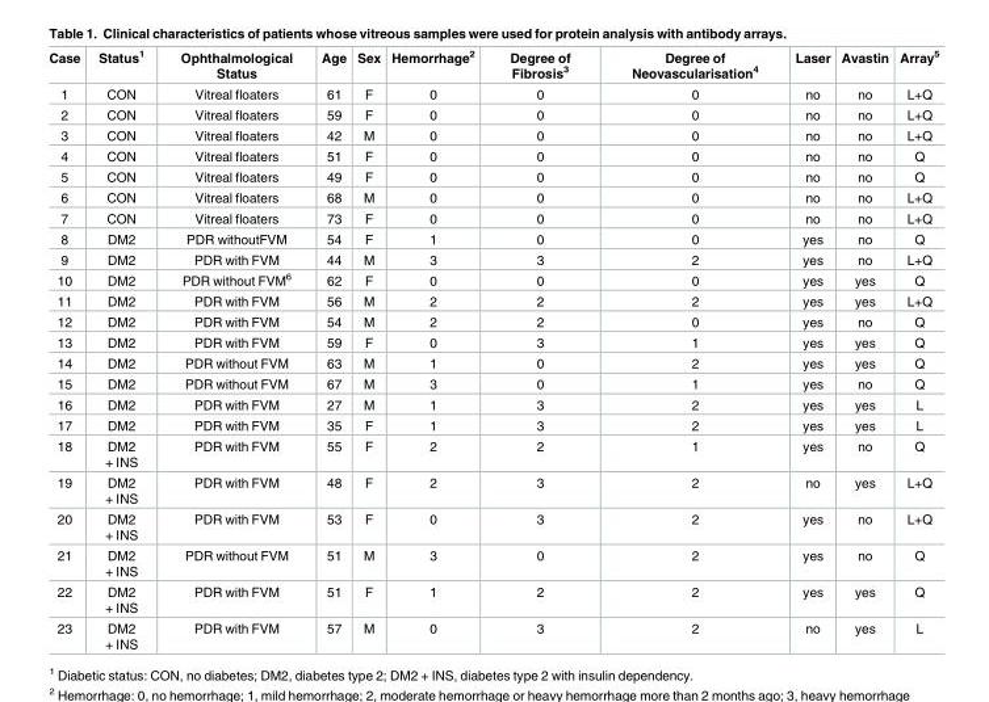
<table><thead><tr><td>Case</td><td>Status<sup>1</sup></td><td>Ophthalmological Status</td><td>Age</td><td>Sex</td><td>Hemorrhage<sup>2</sup></td><td>Degree of Fibrosis<sup>3</sup></td><td>Degree of Neovascularisation<sup>4</sup></td><td>Laser</td><td>Avastin</td><td>Array<sup>5</sup></td></tr></thead><tbody><tr><td>1</td><td>CON</td><td>Vitreal floaters</td><td>61</td><td>F</td><td>0</td><td>0</td><td>0</td><td>no</td><td>no</td><td>L+Q</td></tr><tr><td>2</td><td>CON</td><td>Vitreal floaters</td><td>59</td><td>F</td><td>0</td><td>0</td><td>0</td><td>no</td><td>no</td><td>L+Q</td></tr><tr><td>3</td><td>CON</td><td>Vitreal floaters</td><td>42</td><td>M</td><td>0</td><td>0</td><td>0</td><td>no</td><td>no</td><td>L+Q</td></tr><tr><td>4</td><td>CON</td><td>Vitreal floaters</td><td>51</td><td>F</td><td>0</td><td>0</td><td>0</td><td>no</td><td>no</td><td>Q</td></tr><tr><td>5</td><td>CON</td><td>Vitreal floaters</td><td>49</td><td>F</td><td>0</td><td>0</td><td>0</td><td>no</td><td>no</td><td>Q</td></tr><tr><td>6</td><td>CON</td><td>Vitreal floaters</td><td>68</td><td>M</td><td>0</td><td>0</td><td>0</td><td>no</td><td>no</td><td>L+Q</td></tr><tr><td>7</td><td>CON</td><td>Vitreal floaters</td><td>73</td><td>F</td><td>0</td><td>0</td><td>0</td><td>no</td><td>no</td><td>L+Q</td></tr><tr><td>8</td><td>DM2</td><td>PDR withoutFVM</td><td>54</td><td>F</td><td>1</td><td>0</td><td>0</td><td>yes</td><td>no</td><td>Q</td></tr><tr><td>9</td><td>DM2</td><td>PDR with FVM</td><td>44</td><td>M</td><td>3</td><td>3</td><td>2</td><td>yes</td><td>no</td><td>L+Q</td></tr><tr><td>10</td><td>DM2</td><td>PDR without FVM<sup>6</sup></td><td>62</td><td>F</td><td>0</td><td>0</td><td>0</td><td>yes</td><td>yes</td><td>Q</td></tr><tr><td>11</td><td>DM2</td><td>PDR with FVM</td><td>56</td><td>M</td><td>2</td><td>2</td><td>2</td><td>yes</td><td>yes</td><td>L+Q</td></tr><tr><td>12</td><td>DM2</td><td>PDR with FVM</td><td>54</td><td>M</td><td>2</td><td>2</td><td>0</td><td>yes</td><td>no</td><td>Q</td></tr><tr><td>13</td><td>DM2</td><td>PDR with FVM</td><td>59</td><td>F</td><td>0</td><td>3</td><td>1</td><td>yes</td><td>yes</td><td>Q</td></tr><tr><td>14</td><td>DM2</td><td>PDR without FVM</td><td>63</td><td>M</td><td>1</td><td>0</td><td>2</td><td>yes</td><td>yes</td><td>Q</td></tr><tr><td>15</td><td>DM2</td><td>PDR without FVM</td><td>67</td><td>M</td><td>3</td><td>0</td><td>1</td><td>yes</td><td>no</td><td>Q</td></tr><tr><td>16</td><td>DM2</td><td>PDR with FVM</td><td>27</td><td>M</td><td>1</td><td>3</td><td>2</td><td>yes</td><td>yes</td><td>L</td></tr><tr><td>17</td><td>DM2</td><td>PDR with FVM</td><td>35</td><td>F</td><td>1</td><td>3</td><td>2</td><td>yes</td><td>yes</td><td>L</td></tr><tr><td>18</td><td>DM2 + INS</td><td>PDR with FVM</td><td>55</td><td>F</td><td>2</td><td>2</td><td>1</td><td>yes</td><td>no</td><td>Q</td></tr><tr><td>19</td><td>DM2 + INS</td><td>PDR with FVM</td><td>48</td><td>F</td><td>2</td><td>3</td><td>2</td><td>no</td><td>yes</td><td>L+Q</td></tr><tr><td>20</td><td>DM2 + INS</td><td>PDR with FVM</td><td>53</td><td>F</td><td>0</td><td>3</td><td>2</td><td>yes</td><td>no</td><td>L+Q</td></tr><tr><td>21</td><td>DM2 + INS</td><td>PDR without FVM</td><td>51</td><td>M</td><td>3</td><td>0</td><td>2</td><td>yes</td><td>no</td><td>Q</td></tr><tr><td>22</td><td>DM2 + INS</td><td>PDR with FVM</td><td>51</td><td>F</td><td>1</td><td>2</td><td>2</td><td>yes</td><td>yes</td><td>Q</td></tr><tr><td>23</td><td>DM2 + INS</td><td>PDR with FVM</td><td>57</td><td>M</td><td>0</td><td>3</td><td>2</td><td>no</td><td>yes</td><td>L</td></tr></tbody></table>